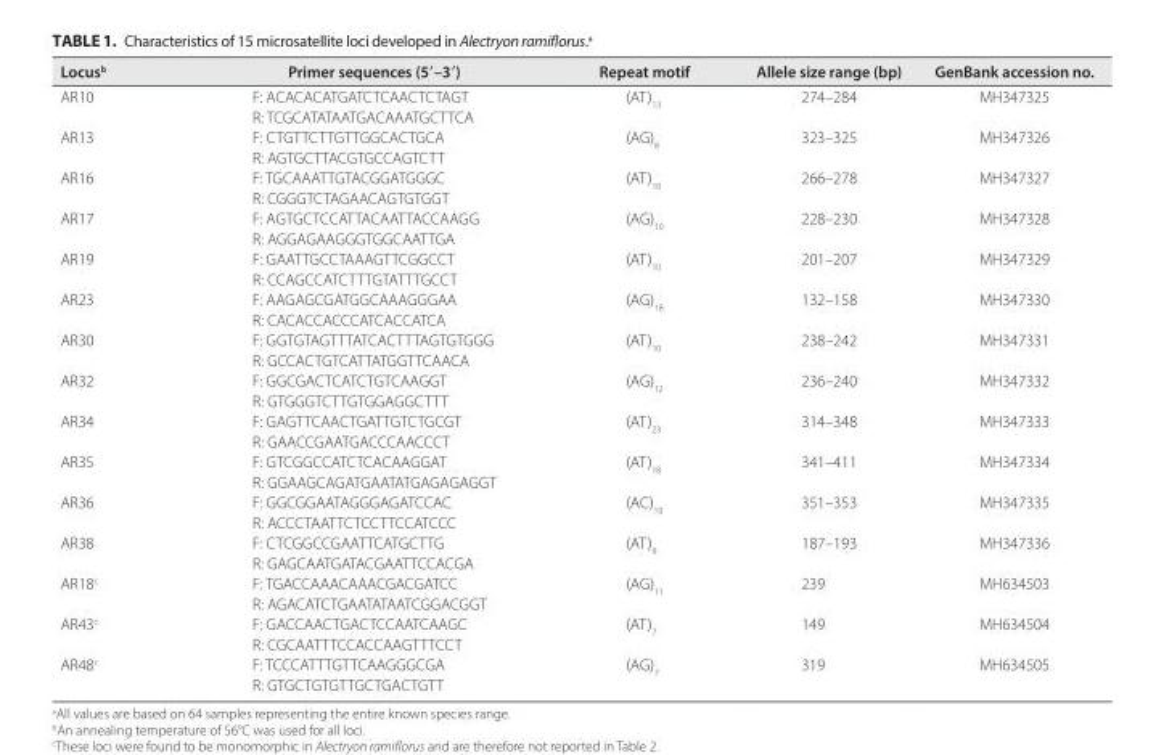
<table><thead><tr><td>Locus<sup>b</sup></td><td>Primer sequences (5′–3′)</td><td>Repeat motif</td><td>Allele size range (bp)</td><td>GenBank accession no.</td></tr></thead><tbody><tr><td rowspan="2">AR10</td><td>F: ACACACATGATCTCAACTCTAGT</td><td rowspan="2">(AT)<sub>13</sub></td><td rowspan="2">274–284</td><td rowspan="2">MH347325</td></tr><tr><td>R: TCGCATATAATGACAAATGCTTCA</td></tr><tr><td rowspan="2">AR13</td><td>F: CTGTTCTTGTTGGCACTGCA</td><td rowspan="2">(AG)<sub>8</sub></td><td rowspan="2">323–325</td><td rowspan="2">MH347326</td></tr><tr><td>R: AGTGCTTACGTGCCAGTCTT</td></tr><tr><td rowspan="2">AR16</td><td>F: TGCAAATTGTACGGATGGGC</td><td rowspan="2">(AT)<sub>10</sub></td><td rowspan="2">266–278</td><td rowspan="2">MH347327</td></tr><tr><td>R: CGGGTCTAGAACAGTGTGGT</td></tr><tr><td rowspan="2">AR17</td><td>F: AGTGCTCCATTACAATTACCAAGG</td><td rowspan="2">(AG)<sub>10</sub></td><td rowspan="2">228–230</td><td rowspan="2">MH347328</td></tr><tr><td>R: AGGAGAAGGGTGGCAATTGA</td></tr><tr><td rowspan="2">AR19</td><td>F: GAATTGCCTAAAGTTCGGCCT</td><td rowspan="2">(AT)<sub>10</sub></td><td rowspan="2">201–207</td><td rowspan="2">MH347329</td></tr><tr><td>R: CCAGCCATCTTTGTATTTGCCT</td></tr><tr><td rowspan="2">AR23</td><td>F: AAGAGCGATGGCAAAGGGAA</td><td rowspan="2">(AG)<sub>18</sub></td><td rowspan="2">132–158</td><td rowspan="2">MH347330</td></tr><tr><td>R: CACACCACCCATCACCATCA</td></tr><tr><td rowspan="2">AR30</td><td>F: GGTGTAGTTTATCACTTTAGTGTGGG</td><td rowspan="2">(AT)<sub>10</sub></td><td rowspan="2">238–242</td><td rowspan="2">MH347331</td></tr><tr><td>R: GCCACTGTCATTATGGTTCAACA</td></tr><tr><td rowspan="2">AR32</td><td>F: GGCGACTCATCTGTCAAGGT</td><td rowspan="2">(AG)<sub>12</sub></td><td rowspan="2">236–240</td><td rowspan="2">MH347332</td></tr><tr><td>R: GTGGGTCTTGTGGAGGCTTT</td></tr><tr><td rowspan="2">AR34</td><td>F: GAGTTCAACTGATTGTCTGCGT</td><td rowspan="2">(AT)<sub>23</sub></td><td rowspan="2">314–348</td><td rowspan="2">MH347333</td></tr><tr><td>R: GAACCGAATGACCCAACCCT</td></tr><tr><td rowspan="2">AR35</td><td>F: GTCGGCCATCTCACAAGGAT</td><td rowspan="2">(AT)<sub>18</sub></td><td rowspan="2">341–411</td><td rowspan="2">MH347334</td></tr><tr><td>R: GGAAGCAGATGAATATGAGAGAGGT</td></tr><tr><td rowspan="2">AR36</td><td>F: GGCGGAATAGGGAGATCCAC</td><td rowspan="2">(AC)<sub>10</sub></td><td rowspan="2">351–353</td><td rowspan="2">MH347335</td></tr><tr><td>R: ACCCTAATTCTCCTTCCATCCC</td></tr><tr><td rowspan="2">AR38</td><td>F: CTCGGCCGAATTCATGCTTG</td><td rowspan="2">(AT)<sub>9</sub></td><td rowspan="2">187–193</td><td rowspan="2">MH347336</td></tr><tr><td>R: GAGCAATGATACGAATTCCACGA</td></tr><tr><td rowspan="2">AR18<sup>c</sup></td><td>F: TGACCAAACAAACGACGATCC</td><td rowspan="2">(AG)<sub>11</sub></td><td rowspan="2">239</td><td rowspan="2">MH634503</td></tr><tr><td>R: AGACATCTGAATATAATCGGACGGT</td></tr><tr><td rowspan="2">AR43<sup>c</sup></td><td>F: GACCAACTGACTCCAATCAAGC</td><td rowspan="2">(AT)<sub>7</sub></td><td rowspan="2">149</td><td rowspan="2">MH634504</td></tr><tr><td>R: CGCAATTTCCACCAAGTTTCCT</td></tr><tr><td rowspan="2">AR48<sup>c</sup></td><td>F: TCCCATTTGTTCAAGGGCGA</td><td rowspan="2">(AG)<sub>7</sub></td><td rowspan="2">319</td><td rowspan="2">MH634505</td></tr><tr><td>R: GTGCTGTGTTGCTGACTGTT</td></tr></tbody></table>